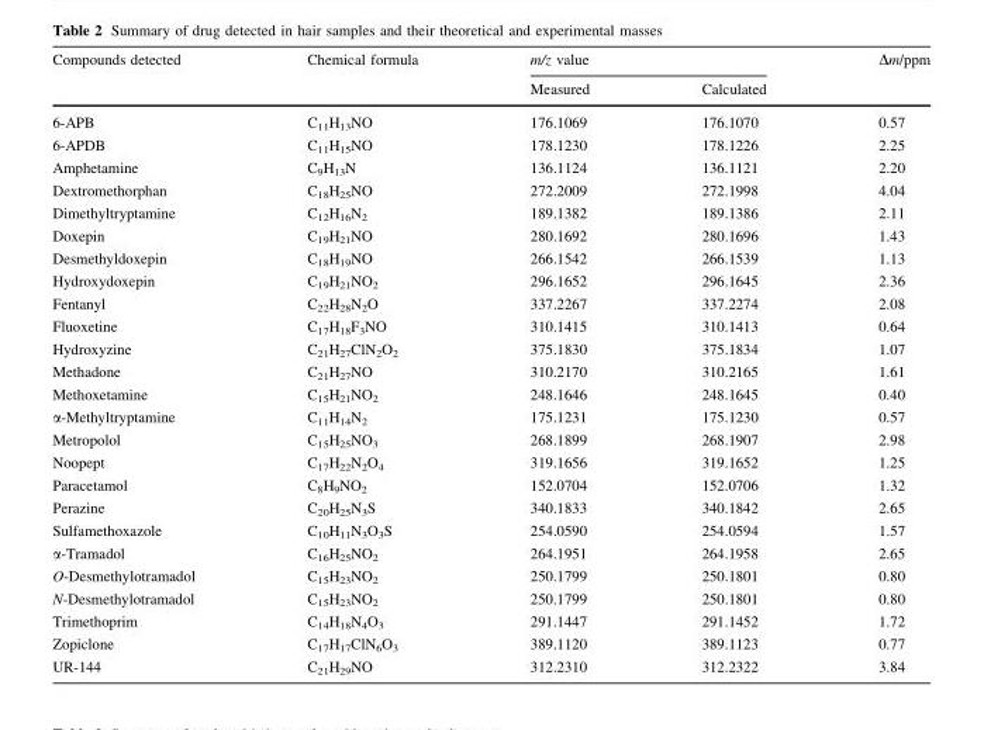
<table><thead><tr><td rowspan="2">Compounds detected</td><td rowspan="2">Chemical formula</td><td colspan="2">m/z value</td><td rowspan="2">Δm/ppm</td></tr><tr><td>Measured</td><td>Calculated</td></tr></thead><tbody><tr><td>6-APB</td><td>C<sub>11</sub>H<sub>13</sub>NO</td><td>176.1069</td><td>176.1070</td><td>0.57</td></tr><tr><td>6-APDB</td><td>C<sub>11</sub>H<sub>15</sub>NO</td><td>178.1230</td><td>178.1226</td><td>2.25</td></tr><tr><td>Amphetamine</td><td>C<sub>9</sub>H<sub>13</sub>N</td><td>136.1124</td><td>136.1121</td><td>2.20</td></tr><tr><td>Dextromethorphan</td><td>C<sub>18</sub>H<sub>25</sub>NO</td><td>272.2009</td><td>272.1998</td><td>4.04</td></tr><tr><td>Dimethyltryptamine</td><td>C<sub>12</sub>H<sub>16</sub>N<sub>2</sub></td><td>189.1382</td><td>189.1386</td><td>2.11</td></tr><tr><td>Doxepin</td><td>C<sub>19</sub>H<sub>21</sub>NO</td><td>280.1692</td><td>280.1696</td><td>1.43</td></tr><tr><td>Desmethyldoxepin</td><td>C<sub>18</sub>H<sub>19</sub>NO</td><td>266.1542</td><td>266.1539</td><td>1.13</td></tr><tr><td>Hydroxydoxepin</td><td>C<sub>19</sub>H<sub>21</sub>NO<sub>2</sub></td><td>296.1652</td><td>296.1645</td><td>2.36</td></tr><tr><td>Fentanyl</td><td>C<sub>22</sub>H<sub>28</sub>N<sub>2</sub>O</td><td>337.2267</td><td>337.2274</td><td>2.08</td></tr><tr><td>Fluoxetine</td><td>C<sub>17</sub>H<sub>18</sub>F<sub>3</sub>NO</td><td>310.1415</td><td>310.1413</td><td>0.64</td></tr><tr><td>Hydroxyzine</td><td>C<sub>21</sub>H<sub>27</sub>ClN<sub>2</sub>O<sub>2</sub></td><td>375.1830</td><td>375.1834</td><td>1.07</td></tr><tr><td>Methadone</td><td>C<sub>21</sub>H<sub>27</sub>NO</td><td>310.2170</td><td>310.2165</td><td>1.61</td></tr><tr><td>Methoxetamine</td><td>C<sub>15</sub>H<sub>21</sub>NO<sub>2</sub></td><td>248.1646</td><td>248.1645</td><td>0.40</td></tr><tr><td>α-Methyltryptamine</td><td>C<sub>11</sub>H<sub>14</sub>N<sub>2</sub></td><td>175.1231</td><td>175.1230</td><td>0.57</td></tr><tr><td>Metropolol</td><td>C<sub>15</sub>H<sub>25</sub>NO<sub>3</sub></td><td>268.1899</td><td>268.1907</td><td>2.98</td></tr><tr><td>Noopept</td><td>C<sub>17</sub>H<sub>22</sub>N<sub>2</sub>O<sub>4</sub></td><td>319.1656</td><td>319.1652</td><td>1.25</td></tr><tr><td>Paracetamol</td><td>C<sub>8</sub>H<sub>9</sub>NO<sub>2</sub></td><td>152.0704</td><td>152.0706</td><td>1.32</td></tr><tr><td>Perazine</td><td>C<sub>20</sub>H<sub>25</sub>N<sub>3</sub>S</td><td>340.1833</td><td>340.1842</td><td>2.65</td></tr><tr><td>Sulfamethoxazole</td><td>C<sub>10</sub>H<sub>11</sub>N<sub>3</sub>O<sub>3</sub>S</td><td>254.0590</td><td>254.0594</td><td>1.57</td></tr><tr><td>α-Tramadol</td><td>C<sub>16</sub>H<sub>25</sub>NO<sub>2</sub></td><td>264.1951</td><td>264.1958</td><td>2.65</td></tr><tr><td>O-Desmethylotramadol</td><td>C<sub>15</sub>H<sub>23</sub>NO<sub>2</sub></td><td>250.1799</td><td>250.1801</td><td>0.80</td></tr><tr><td>N-Desmethylotramadol</td><td>C<sub>15</sub>H<sub>23</sub>NO<sub>2</sub></td><td>250.1799</td><td>250.1801</td><td>0.80</td></tr><tr><td>Trimethoprim</td><td>C<sub>14</sub>H<sub>18</sub>N<sub>4</sub>O<sub>3</sub></td><td>291.1447</td><td>291.1452</td><td>1.72</td></tr><tr><td>Zopiclone</td><td>C<sub>17</sub>H<sub>17</sub>ClN<sub>6</sub>O<sub>3</sub></td><td>389.1120</td><td>389.1123</td><td>0.77</td></tr><tr><td>UR-144</td><td>C<sub>21</sub>H<sub>29</sub>NO</td><td>312.2310</td><td>312.2322</td><td>3.84</td></tr></tbody></table>